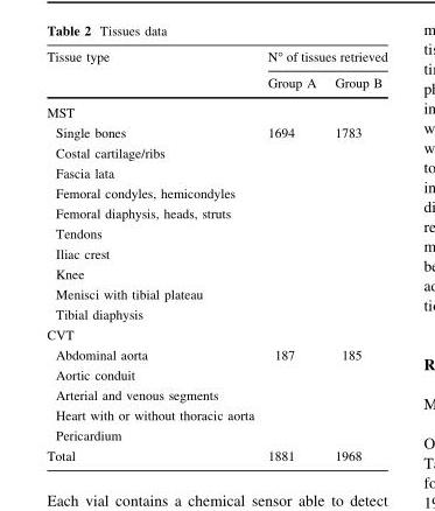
<table><thead><tr><td rowspan="2">Tissue type</td><td colspan="2">N° of tissues retrieved</td></tr><tr><td>Group A</td><td>Group B</td></tr></thead><tbody><tr><td colspan="3">MST</td></tr><tr><td>Single bones</td><td rowspan="10">1694</td><td rowspan="10">1783</td></tr><tr><td>Costal cartilage/ribs</td></tr><tr><td>Fascia lata</td></tr><tr><td>Femoral condyles, hemicondyles</td></tr><tr><td>Femoral diaphysis, heads, struts</td></tr><tr><td>Tendons</td></tr><tr><td>Iliac crest</td></tr><tr><td>Knee</td></tr><tr><td>Menisci with tibial plateau</td></tr><tr><td>Tibial diaphysis</td></tr><tr><td colspan="3">CVT</td></tr><tr><td>Abdominal aorta</td><td rowspan="5">187</td><td rowspan="5">185</td></tr><tr><td>Aortic conduit</td></tr><tr><td>Arterial and venous segments</td></tr><tr><td>Heart with or without thoracic aorta</td></tr><tr><td>Pericardium</td></tr><tr><td>Total</td><td>1881</td><td>1968</td></tr></tbody></table>